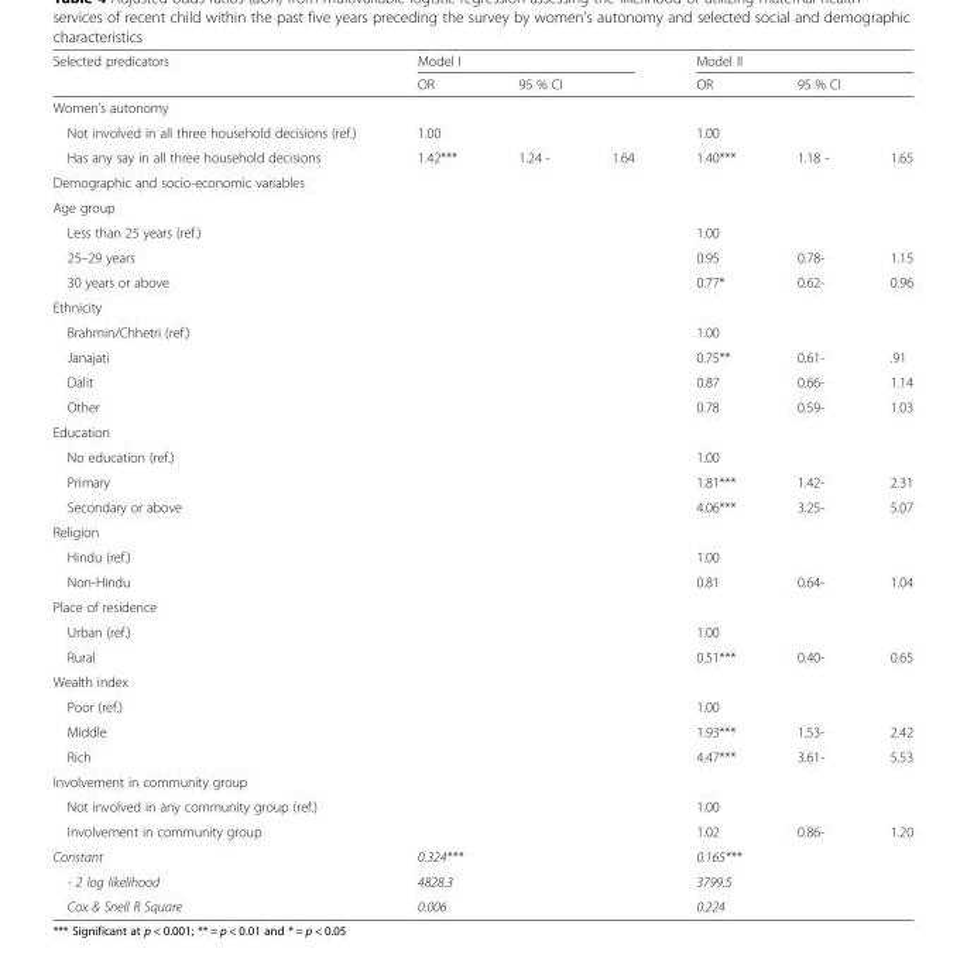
<table><thead><tr><td rowspan="3">Selected predicators Women’s autonomy</td><td colspan="3">Model I</td><td colspan="3">Model II</td></tr><tr><td rowspan="2">OR</td><td colspan="2">95 % CI</td><td rowspan="2">OR</td><td colspan="2">95 % CI</td></tr><tr><td></td><td></td><td></td><td></td></tr></thead><tbody><tr><td>Not involved in all three household decisions (ref.)</td><td>1.00</td><td></td><td></td><td>1.00</td><td></td><td></td></tr><tr><td>Has any say in all three household decisions</td><td>1.42***</td><td>1.24 -</td><td>1.64</td><td>1.40***</td><td>1.18 -</td><td>1.65</td></tr><tr><td colspan="7">Demographic and socio-economic variables</td></tr><tr><td colspan="7">Age group</td></tr><tr><td>Less than 25 years (ref.)</td><td></td><td></td><td></td><td>1.00</td><td></td><td></td></tr><tr><td>25–29 years</td><td></td><td></td><td></td><td>0.95</td><td>0.78-</td><td>1.15</td></tr><tr><td>30 years or above</td><td></td><td></td><td></td><td>0.77*</td><td>0.62-</td><td>0.96</td></tr><tr><td colspan="7">Ethnicity</td></tr><tr><td>Brahmin/Chhetri (ref.)</td><td></td><td></td><td></td><td>1.00</td><td></td><td></td></tr><tr><td>Janajati</td><td></td><td></td><td></td><td>0.75**</td><td>0.61-</td><td>.91</td></tr><tr><td>Dalit</td><td></td><td></td><td></td><td>0.87</td><td>0.66-</td><td>1.14</td></tr><tr><td>Other</td><td></td><td></td><td></td><td>0.78</td><td>0.59-</td><td>1.03</td></tr><tr><td colspan="7">Education</td></tr><tr><td>No education (ref.)</td><td></td><td></td><td></td><td>1.00</td><td></td><td></td></tr><tr><td>Primary</td><td></td><td></td><td></td><td>1.81***</td><td>1.42-</td><td>2.31</td></tr><tr><td>Secondary or above</td><td></td><td></td><td></td><td>4.06***</td><td>3.25-</td><td>5.07</td></tr><tr><td colspan="7">Religion</td></tr><tr><td>Hindu (ref.)</td><td></td><td></td><td></td><td>1.00</td><td></td><td></td></tr><tr><td>Non-Hindu</td><td></td><td></td><td></td><td>0.81</td><td>0.64-</td><td>1.04</td></tr><tr><td colspan="7">Place of residence</td></tr><tr><td>Urban (ref.)</td><td></td><td></td><td></td><td>1.00</td><td></td><td></td></tr><tr><td>Rural</td><td></td><td></td><td></td><td>0.51***</td><td>0.40-</td><td>0.65</td></tr><tr><td colspan="7">Wealth index</td></tr><tr><td>Poor (ref.)</td><td></td><td></td><td></td><td>1.00</td><td></td><td></td></tr><tr><td>Middle</td><td></td><td></td><td></td><td>1.93***</td><td>1.53-</td><td>2.42</td></tr><tr><td>Rich</td><td></td><td></td><td></td><td>4.47***</td><td>3.61-</td><td>5.53</td></tr><tr><td colspan="7">Involvement in community group</td></tr><tr><td>Not involved in any community group (ref.)</td><td></td><td></td><td></td><td>1.00</td><td></td><td></td></tr><tr><td>Involvement in community group</td><td></td><td></td><td></td><td>1.02</td><td>0.86-</td><td>1.20</td></tr><tr><td>Constant</td><td colspan="3">0.324***</td><td colspan="3">0.165***</td></tr><tr><td>- 2 log likelihood</td><td colspan="3">4828.3</td><td colspan="3">3799.5</td></tr><tr><td>Cox &amp; Snell R Square</td><td colspan="3">0.006</td><td colspan="3">0.224</td></tr></tbody></table>